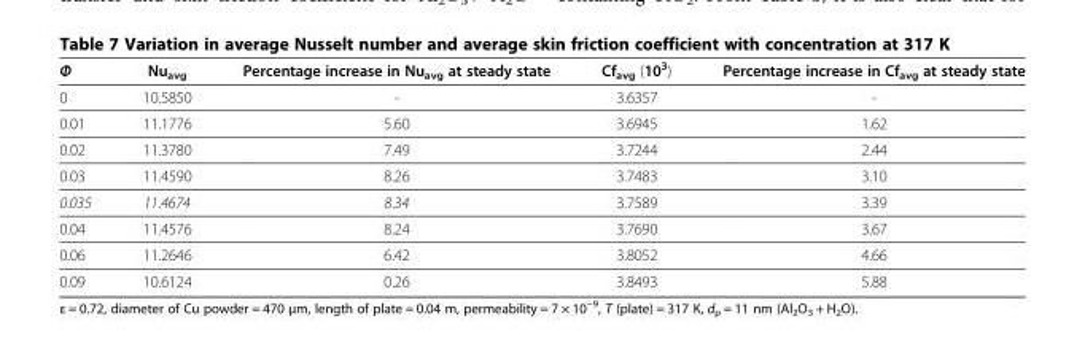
<table><thead><tr><td>Φ</td><td>Nu<sub>avg</sub></td><td>Percentage increase in Nu<sub>avg</sub> at steady state</td><td>Cf<sub>avg</sub> (10<sup>3</sup>)</td><td>Percentage increase in Cf<sub>avg</sub> at steady state</td></tr></thead><tbody><tr><td>0</td><td>10.5850</td><td>-</td><td>3.6357</td><td>-</td></tr><tr><td>0.01</td><td>11.1776</td><td>5.60</td><td>3.6945</td><td>1.62</td></tr><tr><td>0.02</td><td>11.3780</td><td>7.49</td><td>3.7244</td><td>2.44</td></tr><tr><td>0.03</td><td>11.4590</td><td>8.26</td><td>3.7483</td><td>3.10</td></tr><tr><td>0.035</td><td>11.4674</td><td>8.34</td><td>3.7589</td><td>3.39</td></tr><tr><td>0.04</td><td>11.4576</td><td>8.24</td><td>3.7690</td><td>3.67</td></tr><tr><td>0.06</td><td>11.2646</td><td>6.42</td><td>3.8052</td><td>4.66</td></tr><tr><td>0.09</td><td>10.6124</td><td>0.26</td><td>3.8493</td><td>5.88</td></tr></tbody></table>